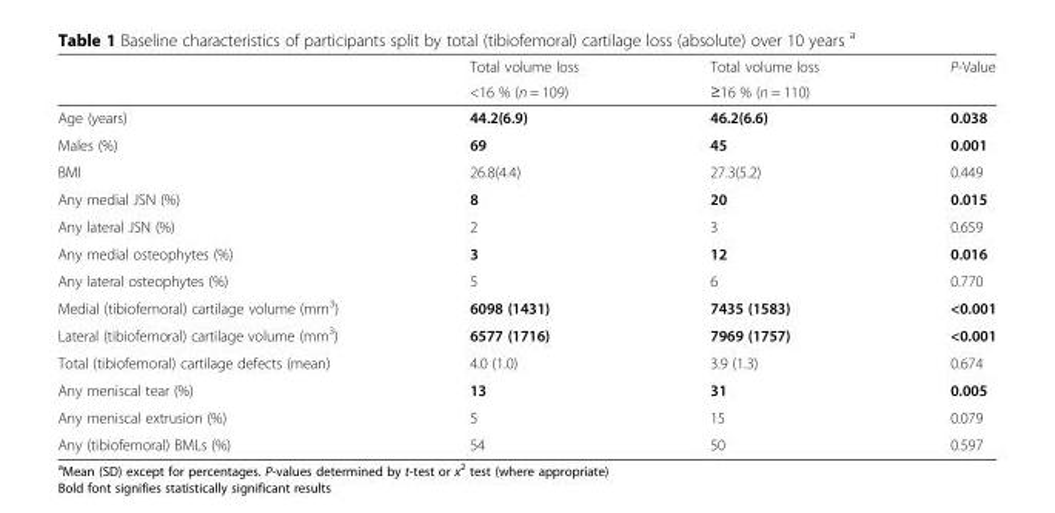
<table><thead><tr><td rowspan="2"></td><td rowspan="2">Total volume loss &lt;16 % (n = 109)</td><td rowspan="2">Total volume loss ≥16 % (n = 110)</td><td rowspan="2">P-Value</td></tr><tr></tr></thead><tbody><tr><td>Age (years)</td><td>44.2(6.9)</td><td>46.2(6.6)</td><td>0.038</td></tr><tr><td>Males (%)</td><td>69</td><td>45</td><td>0.001</td></tr><tr><td>BMI</td><td>26.8(4.4)</td><td>27.3(5.2)</td><td>0.449</td></tr><tr><td>Any medial JSN (%)</td><td>8</td><td>20</td><td>0.015</td></tr><tr><td>Any lateral JSN (%)</td><td>2</td><td>3</td><td>0.659</td></tr><tr><td>Any medial osteophytes (%)</td><td>3</td><td>12</td><td>0.016</td></tr><tr><td>Any lateral osteophytes (%)</td><td>5</td><td>6</td><td>0.770</td></tr><tr><td>Medial (tibiofemoral) cartilage volume (mm<sup>3</sup>)</td><td>6098 (1431)</td><td>7435 (1583)</td><td>&lt;0.001</td></tr><tr><td>Lateral (tibiofemoral) cartilage volume (mm<sup>3</sup>)</td><td>6577 (1716)</td><td>7969 (1757)</td><td>&lt;0.001</td></tr><tr><td>Total (tibiofemoral) cartilage defects (mean)</td><td>4.0 (1.0)</td><td>3.9 (1.3)</td><td>0.674</td></tr><tr><td>Any meniscal tear (%)</td><td>13</td><td>31</td><td>0.005</td></tr><tr><td>Any meniscal extrusion (%)</td><td>5</td><td>15</td><td>0.079</td></tr><tr><td>Any (tibiofemoral) BMLs (%)</td><td>54</td><td>50</td><td>0.597</td></tr></tbody></table>